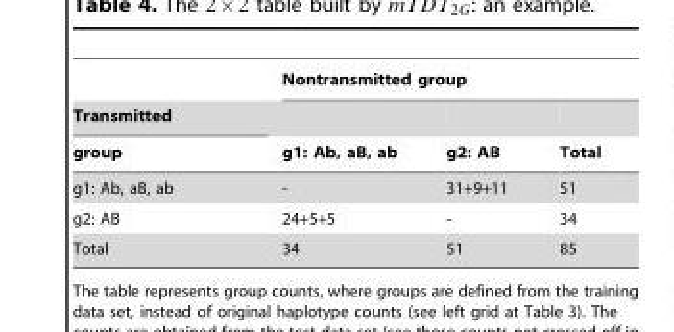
<table><thead><tr><td rowspan="3">Transmitted group</td><td colspan="3">Nontransmitted group</td></tr><tr><td rowspan="2">g1: Ab, aB, ab</td><td rowspan="2">g2: AB</td><td rowspan="2">Total</td></tr><tr></tr></thead><tbody><tr><td>g1: Ab, aB, ab</td><td>-</td><td>31+9+11</td><td>51</td></tr><tr><td>g2: AB</td><td>24+5+5</td><td>-</td><td>34</td></tr><tr><td>Total</td><td>34</td><td>51</td><td>85</td></tr></tbody></table>